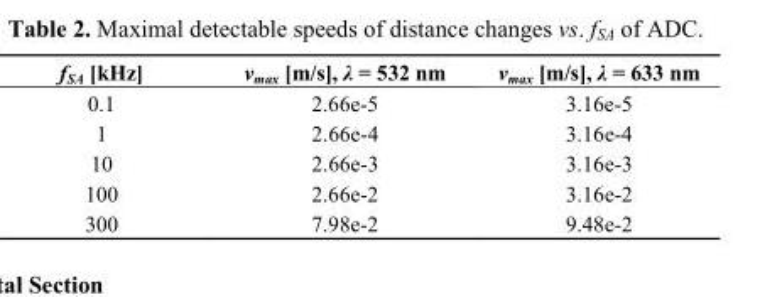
<table><thead><tr><td>f<sub>SA</sub> [kHz]</td><td>v<sub>max</sub> [m/s], λ = 532 nm</td><td>v<sub>max</sub> [m/s], λ = 633 nm</td></tr></thead><tbody><tr><td>0.1</td><td>2.66e-5</td><td>3.16e-5</td></tr><tr><td>1</td><td>2.66e-4</td><td>3.16e-4</td></tr><tr><td>10</td><td>2.66e-3</td><td>3.16e-3</td></tr><tr><td>100</td><td>2.66e-2</td><td>3.16e-2</td></tr><tr><td>300</td><td>7.98e-2</td><td>9.48e-2</td></tr></tbody></table>